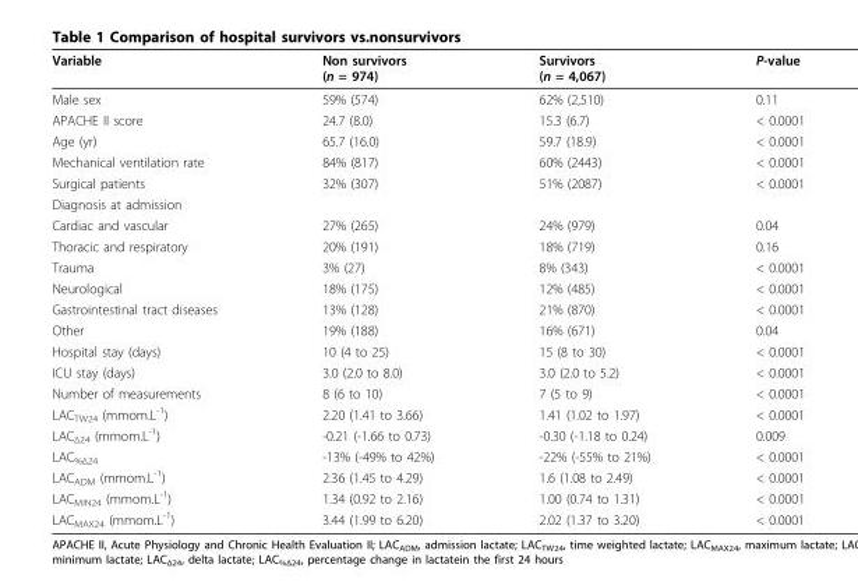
<table><thead><tr><td>Variable</td><td>Non survivors (n = 974)</td><td>Survivors (n = 4,067)</td><td>P-value</td></tr></thead><tbody><tr><td>Male sex</td><td>59% (574)</td><td>62% (2,510)</td><td>0.11</td></tr><tr><td>APACHE II score</td><td>24.7 (8.0)</td><td>15.3 (6.7)</td><td>&lt; 0.0001</td></tr><tr><td>Age (yr)</td><td>65.7 (16.0)</td><td>59.7 (18.9)</td><td>&lt; 0.0001</td></tr><tr><td>Mechanical ventilation rate</td><td>84% (817)</td><td>60% (2443)</td><td>&lt; 0.0001</td></tr><tr><td>Surgical patients</td><td>32% (307)</td><td>51% (2087)</td><td>&lt; 0.0001</td></tr><tr><td colspan="4">Diagnosis at admission</td></tr><tr><td>Cardiac and vascular</td><td>27% (265)</td><td>24% (979)</td><td>0.04</td></tr><tr><td>Thoracic and respiratory</td><td>20% (191)</td><td>18% (719)</td><td>0.16</td></tr><tr><td>Trauma</td><td>3% (27)</td><td>8% (343)</td><td>&lt; 0.0001</td></tr><tr><td>Neurological</td><td>18% (175)</td><td>12% (485)</td><td>&lt; 0.0001</td></tr><tr><td>Gastrointestinal tract diseases</td><td>13% (128)</td><td>21% (870)</td><td>&lt; 0.0001</td></tr><tr><td>Other</td><td>19% (188)</td><td>16% (671)</td><td>0.04</td></tr><tr><td>Hospital stay (days)</td><td>10 (4 to 25)</td><td>15 (8 to 30)</td><td>&lt; 0.0001</td></tr><tr><td>ICU stay (days)</td><td>3.0 (2.0 to 8.0)</td><td>3.0 (2.0 to 5.2)</td><td>&lt; 0.0001</td></tr><tr><td>Number of measurements</td><td>8 (6 to 10)</td><td>7 (5 to 9)</td><td>&lt; 0.0001</td></tr><tr><td>LAC<sub>TW24</sub> (mmom.L<sup>-1</sup>)</td><td>2.20 (1.41 to 3.66)</td><td>1.41 (1.02 to 1.97)</td><td>&lt; 0.0001</td></tr><tr><td>LAC<sub>Δ24</sub> (mmom.L<sup>-1</sup>)</td><td>-0.21 (-1.66 to 0.73)</td><td>-0.30 (-1.18 to 0.24)</td><td>0.009</td></tr><tr><td>LAC<sub>%Δ24</sub></td><td>-13% (-49% to 42%)</td><td>-22% (-55% to 21%)</td><td>&lt; 0.0001</td></tr><tr><td>LAC<sub>ADM</sub> (mmom.L<sup>-1</sup>)</td><td>2.36 (1.45 to 4.29)</td><td>1.6 (1.08 to 2.49)</td><td>&lt; 0.0001</td></tr><tr><td>LAC<sub>MIN24</sub> (mmom.L<sup>-1</sup>)</td><td>1.34 (0.92 to 2.16)</td><td>1.00 (0.74 to 1.31)</td><td>&lt; 0.0001</td></tr><tr><td>LAC<sub>MAX24</sub> (mmom.L<sup>-1</sup>)</td><td>3.44 (1.99 to 6.20)</td><td>2.02 (1.37 to 3.20)</td><td>&lt; 0.0001</td></tr></tbody></table>